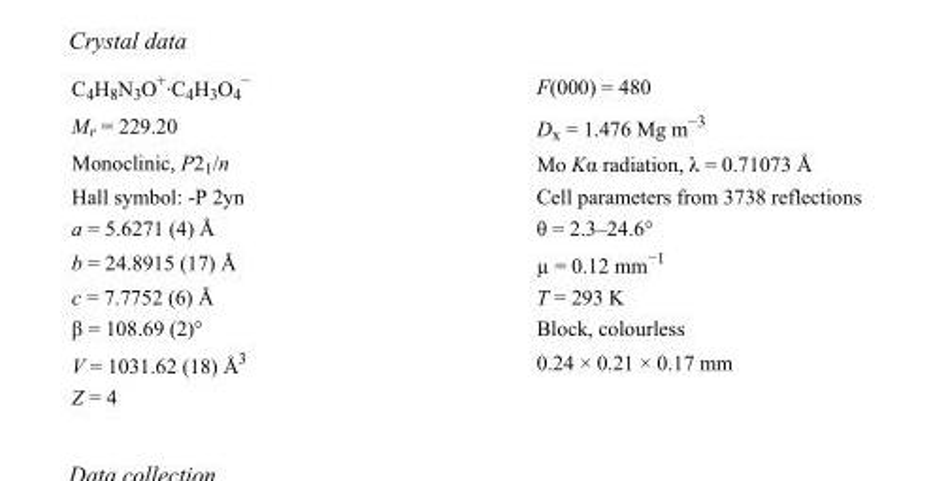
<table><tbody><tr><td>C<sub>4</sub>H<sub>8</sub>N<sub>3</sub>O<sup>+</sup>·C<sub>4</sub>H<sub>3</sub>O<sub>4</sub> <sup>−</sup></td><td>F(000) = 480</td></tr><tr><td>M<sub>r</sub> = 229.20</td><td>D<sub>x</sub> = 1.476 Mg m<sup>−3</sup></td></tr><tr><td>Monoclinic, P2<sub>1</sub>/n</td><td>Mo Kα radiation, λ = 0.71073 Å</td></tr><tr><td>Hall symbol: -P 2yn</td><td>Cell parameters from 3738 reflections</td></tr><tr><td>a = 5.6271 (4) Å</td><td>θ = 2.3–24.6°</td></tr><tr><td>b = 24.8915 (17) Å</td><td>µ = 0.12 mm<sup>−1</sup></td></tr><tr><td>c = 7.7752 (6) Å</td><td>T = 293 K</td></tr><tr><td>β = 108.69 (2)°</td><td>Block, colourless</td></tr><tr><td>V = 1031.62 (18) Å<sup>3</sup></td><td>0.24 × 0.21 × 0.17 mm</td></tr><tr><td>Z = 4</td><td></td></tr></tbody></table>